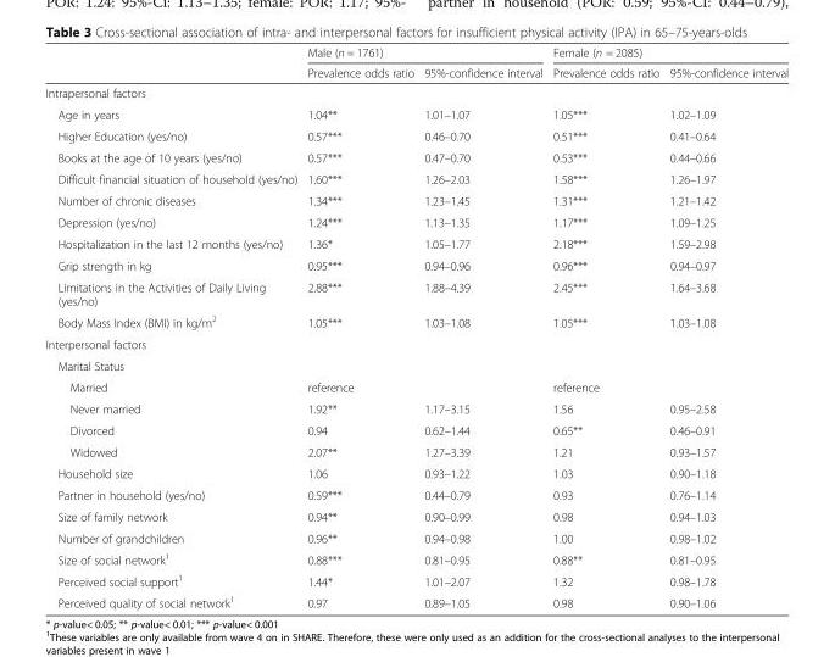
<table><thead><tr><td rowspan="2"></td><td colspan="2">Male (n = 1761)</td><td colspan="2">Female (n = 2085)</td></tr><tr><td>Prevalence odds ratio</td><td>95%-confidence interval</td><td>Prevalence odds ratio</td><td>95%-confidence interval</td></tr></thead><tbody><tr><td colspan="5">Intrapersonal factors</td></tr><tr><td>Age in years</td><td>1.04**</td><td>1.01–1.07</td><td>1.05***</td><td>1.02–1.09</td></tr><tr><td>Higher Education (yes/no)</td><td>0.57***</td><td>0.46–0.70</td><td>0.51***</td><td>0.41–0.64</td></tr><tr><td>Books at the age of 10 years (yes/no)</td><td>0.57***</td><td>0.47–0.70</td><td>0.53***</td><td>0.44–0.66</td></tr><tr><td>Difficult financial situation of household (yes/no)</td><td>1.60***</td><td>1.26–2.03</td><td>1.58***</td><td>1.26–1.97</td></tr><tr><td>Number of chronic diseases</td><td>1.34***</td><td>1.23–1.45</td><td>1.31***</td><td>1.21–1.42</td></tr><tr><td>Depression (yes/no)</td><td>1.24***</td><td>1.13–1.35</td><td>1.17***</td><td>1.09–1.25</td></tr><tr><td>Hospitalization in the last 12 months (yes/no)</td><td>1.36*</td><td>1.05–1.77</td><td>2.18***</td><td>1.59–2.98</td></tr><tr><td>Grip strength in kg</td><td>0.95***</td><td>0.94–0.96</td><td>0.96***</td><td>0.94–0.97</td></tr><tr><td>Limitations in the Activities of Daily Living (yes/no)</td><td>2.88***</td><td>1.88–4.39</td><td>2.45***</td><td>1.64–3.68</td></tr><tr><td>Body Mass Index (BMI) in kg/m<sup>2</sup></td><td>1.05***</td><td>1.03–1.08</td><td>1.05***</td><td>1.03–1.08</td></tr><tr><td colspan="5">Interpersonal factors</td></tr><tr><td colspan="5">Marital Status</td></tr><tr><td>Married</td><td>reference</td><td></td><td>reference</td><td></td></tr><tr><td>Never married</td><td>1.92**</td><td>1.17–3.15</td><td>1.56</td><td>0.95–2.58</td></tr><tr><td>Divorced</td><td>0.94</td><td>0.62–1.44</td><td>0.65**</td><td>0.46–0.91</td></tr><tr><td>Widowed</td><td>2.07**</td><td>1.27–3.39</td><td>1.21</td><td>0.93–1.57</td></tr><tr><td>Household size</td><td>1.06</td><td>0.93–1.22</td><td>1.03</td><td>0.90–1.18</td></tr><tr><td>Partner in household (yes/no)</td><td>0.59***</td><td>0.44–0.79</td><td>0.93</td><td>0.76–1.14</td></tr><tr><td>Size of family network</td><td>0.94**</td><td>0.90–0.99</td><td>0.98</td><td>0.94–1.03</td></tr><tr><td>Number of grandchildren</td><td>0.96**</td><td>0.94–0.98</td><td>1.00</td><td>0.98–1.02</td></tr><tr><td>Size of social network<sup>1</sup></td><td>0.88***</td><td>0.81–0.95</td><td>0.88**</td><td>0.81–0.95</td></tr><tr><td>Perceived social support<sup>1</sup></td><td>1.44*</td><td>1.01–2.07</td><td>1.32</td><td>0.98–1.78</td></tr><tr><td>Perceived quality of social network<sup>1</sup></td><td>0.97</td><td>0.89–1.05</td><td>0.98</td><td>0.90–1.06</td></tr></tbody></table>